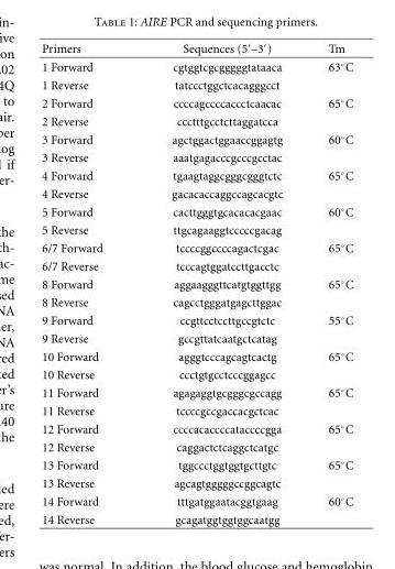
<table><thead><tr><td>Primers</td><td>Sequences (5′–3′)</td><td>Tm</td></tr></thead><tbody><tr><td>1 Forward</td><td>cgtggtcgcgggggtataaca</td><td>63◦C</td></tr><tr><td>1 Reverse</td><td>tatccctggctcacagggcct</td><td></td></tr><tr><td>2 Forward</td><td>ccccagccccaccctcaacac</td><td>65◦C</td></tr><tr><td>2 Reverse</td><td>ccctttgcctcttaggatcca</td><td></td></tr><tr><td>3 Forward</td><td>agctggactggaaccggagtg</td><td>60◦C</td></tr><tr><td>3 Reverse</td><td>aaatgagacccgcccgcctac</td><td></td></tr><tr><td>4 Forward</td><td>tgaagtaggcgggcgggtctc</td><td>65◦C</td></tr><tr><td>4 Reverse</td><td>gacacaccaggccagcacgtc</td><td></td></tr><tr><td>5 Forward</td><td>cacttgggtgcacacacgaac</td><td>60◦C</td></tr><tr><td>5 Reverse</td><td>ttgcagaaggtcccccgacag</td><td></td></tr><tr><td>6/7 Forward</td><td>tccccggccccagactcgac</td><td>65◦C</td></tr><tr><td>6/7 Reverse</td><td>tcccagtggatccttgacctc</td><td></td></tr><tr><td>8 Forward</td><td>aggaagggttcatgtggttgg</td><td>65◦C</td></tr><tr><td>8 Reverse</td><td>cagcctgggatgagcttggac</td><td></td></tr><tr><td>9 Forward</td><td>ccgttcctccttgccgtctc</td><td>55◦C</td></tr><tr><td>9 Reverse</td><td>gccgttatcaatgctcatag</td><td></td></tr><tr><td>10 Forward</td><td>agggtcccagcagtcactg</td><td>65◦C</td></tr><tr><td>10 Reverse</td><td>ccctgtgcctcccggagcc</td><td></td></tr><tr><td>11 Forward</td><td>agagaggtgcgggcgccagg</td><td>65◦C</td></tr><tr><td>11 Reverse</td><td>tccccgccgaccacgctcac</td><td></td></tr><tr><td>12 Forward</td><td>ccccacaccccataccccgga</td><td>65◦C</td></tr><tr><td>12 Reverse</td><td>caggactctcaggctcatgc</td><td></td></tr><tr><td>13 Forward</td><td>tggccctggtggtgcttgtc</td><td>65◦C</td></tr><tr><td>13 Reverse</td><td>agcagtgggggccggcagtc</td><td></td></tr><tr><td>14 Forward</td><td>tttgatggaatacggtgaag</td><td>60◦C</td></tr><tr><td>14 Reverse</td><td>gcagatggtggtggcaatgg</td><td></td></tr></tbody></table>